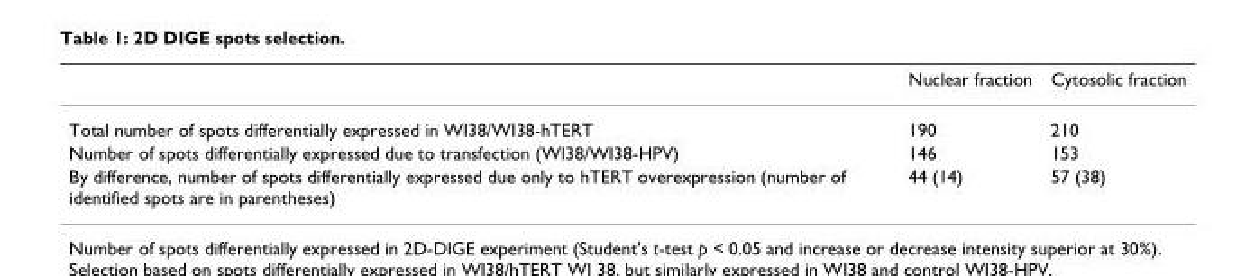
<table><thead><tr><td></td><td>Nuclear fraction</td><td>Cytosolic fraction</td></tr></thead><tbody><tr><td>Total number of spots differentially expressed in WI38/WI38-hTERT</td><td>190</td><td>210</td></tr><tr><td>Number of spots differentially expressed due to transfection (WI38/WI38-HPV)</td><td>146</td><td>153</td></tr><tr><td>By difference, number of spots differentially expressed due only to hTERT overexpression (number of identified spots are in parentheses)</td><td>44 (14)</td><td>57 (38)</td></tr></tbody></table>